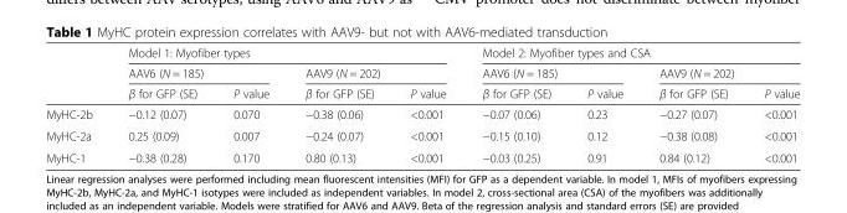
<table><thead><tr><td rowspan="3"></td><td colspan="4">Model 1: Myofiber types</td><td colspan="4">Model 2: Myofiber types and CSA</td></tr><tr><td colspan="2">AAV6 (N = 185)</td><td colspan="2">AAV9 (N = 202)</td><td colspan="2">AAV6 (N = 185)</td><td colspan="2">AAV9 (N = 202)</td></tr><tr><td>β for GFP (SE)</td><td>P value</td><td>β for GFP (SE)</td><td>P value</td><td>β for GFP (SE)</td><td>P value</td><td>β for GFP (SE)</td><td>P value</td></tr></thead><tbody><tr><td>MyHC-2b</td><td>−0.12 (0.07)</td><td>0.070</td><td>−0.38 (0.06)</td><td>&lt;0.001</td><td>−0.07 (0.06)</td><td>0.23</td><td>−0.27 (0.07)</td><td>&lt;0.001</td></tr><tr><td>MyHC-2a</td><td>0.25 (0.09)</td><td>0.007</td><td>−0.24 (0.07)</td><td>&lt;0.001</td><td>−0.15 (0.10)</td><td>0.12</td><td>−0.38 (0.08)</td><td>&lt;0.001</td></tr><tr><td>MyHC-1</td><td>−0.38 (0.28)</td><td>0.170</td><td>0.80 (0.13)</td><td>&lt;0.001</td><td>−0.03 (0.25)</td><td>0.91</td><td>0.84 (0.12)</td><td>&lt;0.001</td></tr></tbody></table>